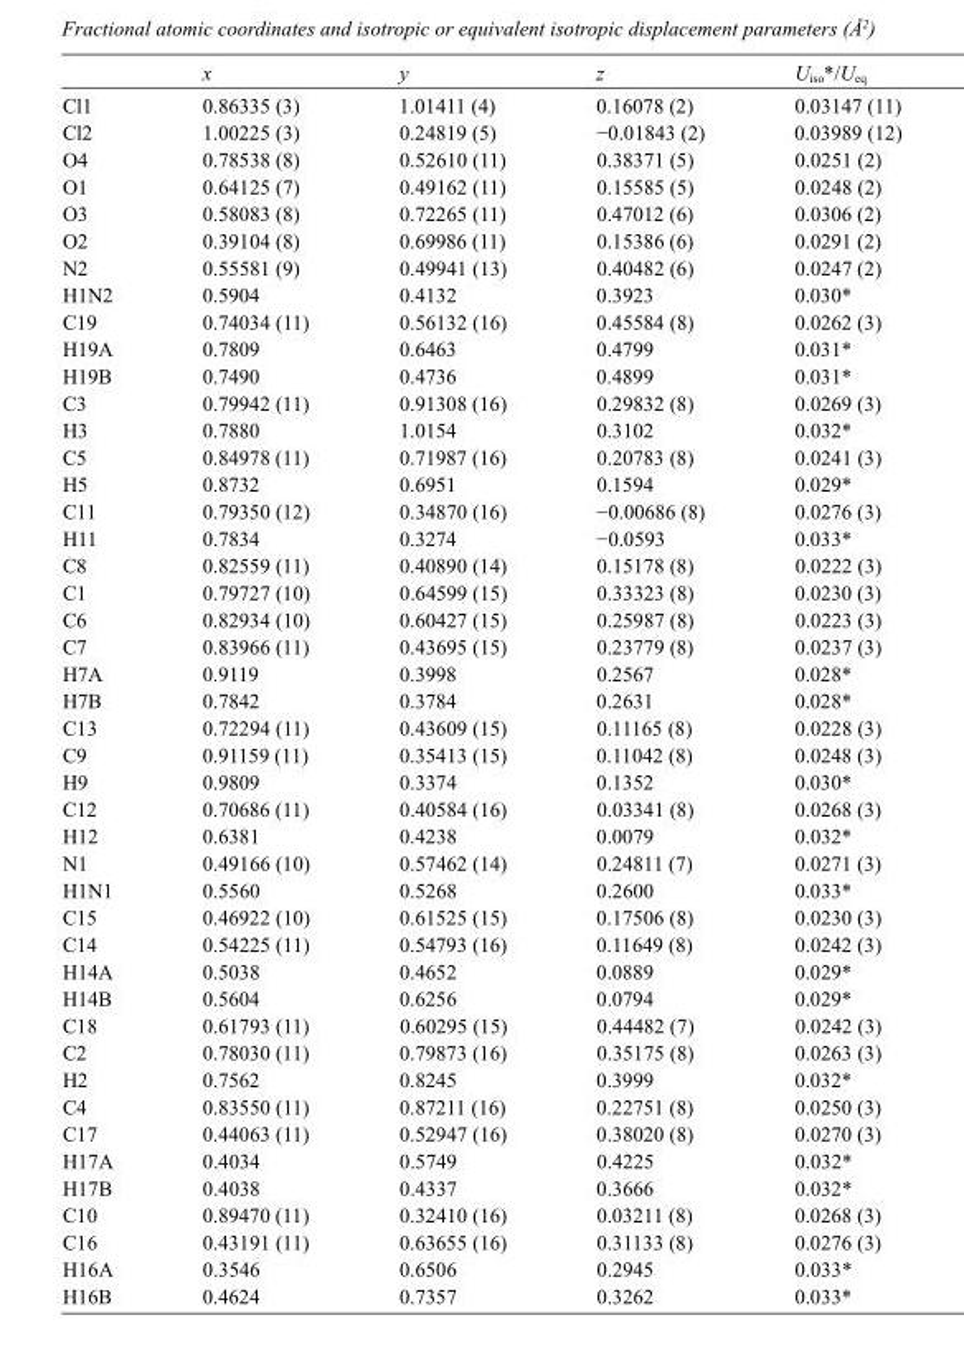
<table><thead><tr><td></td><td>x</td><td>y</td><td>z</td><td>U<sub>iso</sub>*/U<sub>eq</sub></td></tr></thead><tbody><tr><td>Cl1</td><td>0.86335 (3)</td><td>1.01411 (4)</td><td>0.16078 (2)</td><td>0.03147 (11)</td></tr><tr><td>Cl2</td><td>1.00225 (3)</td><td>0.24819 (5)</td><td>−0.01843 (2)</td><td>0.03989 (12)</td></tr><tr><td>O4</td><td>0.78538 (8)</td><td>0.52610 (11)</td><td>0.38371 (5)</td><td>0.0251 (2)</td></tr><tr><td>O1</td><td>0.64125 (7)</td><td>0.49162 (11)</td><td>0.15585 (5)</td><td>0.0248 (2)</td></tr><tr><td>O3</td><td>0.58083 (8)</td><td>0.72265 (11)</td><td>0.47012 (6)</td><td>0.0306 (2)</td></tr><tr><td>O2</td><td>0.39104 (8)</td><td>0.69986 (11)</td><td>0.15386 (6)</td><td>0.0291 (2)</td></tr><tr><td>N2</td><td>0.55581 (9)</td><td>0.49941 (13)</td><td>0.40482 (6)</td><td>0.0247 (2)</td></tr><tr><td>H1N2</td><td>0.5904</td><td>0.4132</td><td>0.3923</td><td>0.030*</td></tr><tr><td>C19</td><td>0.74034 (11)</td><td>0.56132 (16)</td><td>0.45584 (8)</td><td>0.0262 (3)</td></tr><tr><td>H19A</td><td>0.7809</td><td>0.6463</td><td>0.4799</td><td>0.031*</td></tr><tr><td>H19B</td><td>0.7490</td><td>0.4736</td><td>0.4899</td><td>0.031*</td></tr><tr><td>C3</td><td>0.79942 (11)</td><td>0.91308 (16)</td><td>0.29832 (8)</td><td>0.0269 (3)</td></tr><tr><td>H3</td><td>0.7880</td><td>1.0154</td><td>0.3102</td><td>0.032*</td></tr><tr><td>C5</td><td>0.84978 (11)</td><td>0.71987 (16)</td><td>0.20783 (8)</td><td>0.0241 (3)</td></tr><tr><td>H5</td><td>0.8732</td><td>0.6951</td><td>0.1594</td><td>0.029*</td></tr><tr><td>C11</td><td>0.79350 (12)</td><td>0.34870 (16)</td><td>−0.00686 (8)</td><td>0.0276 (3)</td></tr><tr><td>H11</td><td>0.7834</td><td>0.3274</td><td>−0.0593</td><td>0.033*</td></tr><tr><td>C8</td><td>0.82559 (11)</td><td>0.40890 (14)</td><td>0.15178 (8)</td><td>0.0222 (3)</td></tr><tr><td>C1</td><td>0.79727 (10)</td><td>0.64599 (15)</td><td>0.33323 (8)</td><td>0.0230 (3)</td></tr><tr><td>C6</td><td>0.82934 (10)</td><td>0.60427 (15)</td><td>0.25987 (8)</td><td>0.0223 (3)</td></tr><tr><td>C7</td><td>0.83966 (11)</td><td>0.43695 (15)</td><td>0.23779 (8)</td><td>0.0237 (3)</td></tr><tr><td>H7A</td><td>0.9119</td><td>0.3998</td><td>0.2567</td><td>0.028*</td></tr><tr><td>H7B</td><td>0.7842</td><td>0.3784</td><td>0.2631</td><td>0.028*</td></tr><tr><td>C13</td><td>0.72294 (11)</td><td>0.43609 (15)</td><td>0.11165 (8)</td><td>0.0228 (3)</td></tr><tr><td>C9</td><td>0.91159 (11)</td><td>0.35413 (15)</td><td>0.11042 (8)</td><td>0.0248 (3)</td></tr><tr><td>H9</td><td>0.9809</td><td>0.3374</td><td>0.1352</td><td>0.030*</td></tr><tr><td>C12</td><td>0.70686 (11)</td><td>0.40584 (16)</td><td>0.03341 (8)</td><td>0.0268 (3)</td></tr><tr><td>H12</td><td>0.6381</td><td>0.4238</td><td>0.0079</td><td>0.032*</td></tr><tr><td>N1</td><td>0.49166 (10)</td><td>0.57462 (14)</td><td>0.24811 (7)</td><td>0.0271 (3)</td></tr><tr><td>H1N1</td><td>0.5560</td><td>0.5268</td><td>0.2600</td><td>0.033*</td></tr><tr><td>C15</td><td>0.46922 (10)</td><td>0.61525 (15)</td><td>0.17506 (8)</td><td>0.0230 (3)</td></tr><tr><td>C14</td><td>0.54225 (11)</td><td>0.54793 (16)</td><td>0.11649 (8)</td><td>0.0242 (3)</td></tr><tr><td>H14A</td><td>0.5038</td><td>0.4652</td><td>0.0889</td><td>0.029*</td></tr><tr><td>H14B</td><td>0.5604</td><td>0.6256</td><td>0.0794</td><td>0.029*</td></tr><tr><td>C18</td><td>0.61793 (11)</td><td>0.60295 (15)</td><td>0.44482 (7)</td><td>0.0242 (3)</td></tr><tr><td>C2</td><td>0.78030 (11)</td><td>0.79873 (16)</td><td>0.35175 (8)</td><td>0.0263 (3)</td></tr><tr><td>H2</td><td>0.7562</td><td>0.8245</td><td>0.3999</td><td>0.032*</td></tr><tr><td>C4</td><td>0.83550 (11)</td><td>0.87211 (16)</td><td>0.22751 (8)</td><td>0.0250 (3)</td></tr><tr><td>C17</td><td>0.44063 (11)</td><td>0.52947 (16)</td><td>0.38020 (8)</td><td>0.0270 (3)</td></tr><tr><td>H17A</td><td>0.4034</td><td>0.5749</td><td>0.4225</td><td>0.032*</td></tr><tr><td>H17B</td><td>0.4038</td><td>0.4337</td><td>0.3666</td><td>0.032*</td></tr><tr><td>C10</td><td>0.89470 (11)</td><td>0.32410 (16)</td><td>0.03211 (8)</td><td>0.0268 (3)</td></tr><tr><td>C16</td><td>0.43191 (11)</td><td>0.63655 (16)</td><td>0.31133 (8)</td><td>0.0276 (3)</td></tr><tr><td>H16A</td><td>0.3546</td><td>0.6506</td><td>0.2945</td><td>0.033*</td></tr><tr><td>H16B</td><td>0.4624</td><td>0.7357</td><td>0.3262</td><td>0.033*</td></tr></tbody></table>